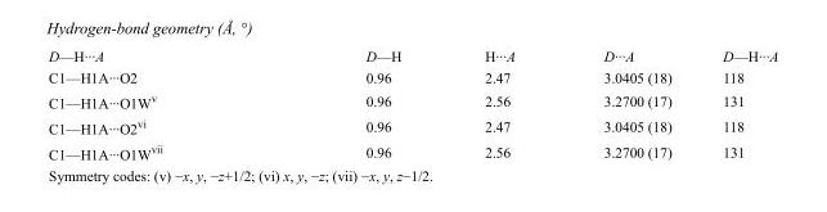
<table><tbody><tr><td>D—H···A</td><td>D—H</td><td>H···A</td><td>D···A</td><td>D—H···A</td></tr><tr><td>C1—H1A···O2</td><td>0.96</td><td>2.47</td><td>3.0405 (18)</td><td>118</td></tr><tr><td>C1—H1A···O1W<sup>v</sup></td><td>0.96</td><td>2.56</td><td>3.2700 (17)</td><td>131</td></tr><tr><td>C1—H1A···O2<sup>vi</sup></td><td>0.96</td><td>2.47</td><td>3.0405 (18)</td><td>118</td></tr><tr><td>C1—H1A···O1W<sup>vii</sup></td><td>0.96</td><td>2.56</td><td>3.2700 (17)</td><td>131</td></tr></tbody></table>